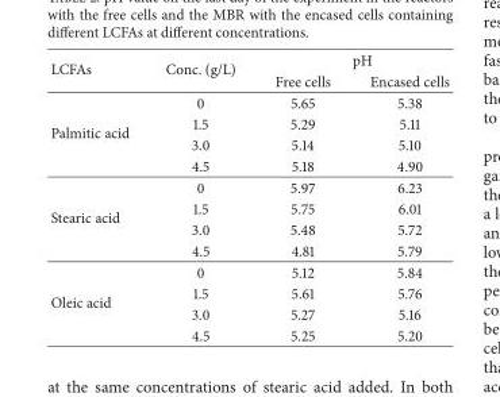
<table><thead><tr><td rowspan="2">LCFAs</td><td rowspan="2">Conc. (g/L)</td><td colspan="2">pH</td></tr><tr><td>Free cells</td><td>Encased cells</td></tr></thead><tbody><tr><td rowspan="4">Palmitic acid</td><td>0</td><td>5.65</td><td>5.38</td></tr><tr><td>1.5</td><td>5.29</td><td>5.11</td></tr><tr><td>3.0</td><td>5.14</td><td>5.10</td></tr><tr><td>4.5</td><td>5.18</td><td>4.90</td></tr><tr><td rowspan="4">Stearic acid</td><td>0</td><td>5.97</td><td>6.23</td></tr><tr><td>1.5</td><td>5.75</td><td>6.01</td></tr><tr><td>3.0</td><td>5.48</td><td>5.72</td></tr><tr><td>4.5</td><td>4.81</td><td>5.79</td></tr><tr><td rowspan="4">Oleic acid</td><td>0</td><td>5.12</td><td>5.84</td></tr><tr><td>1.5</td><td>5.61</td><td>5.76</td></tr><tr><td>3.0</td><td>5.27</td><td>5.16</td></tr><tr><td>4.5</td><td>5.25</td><td>5.20</td></tr></tbody></table>